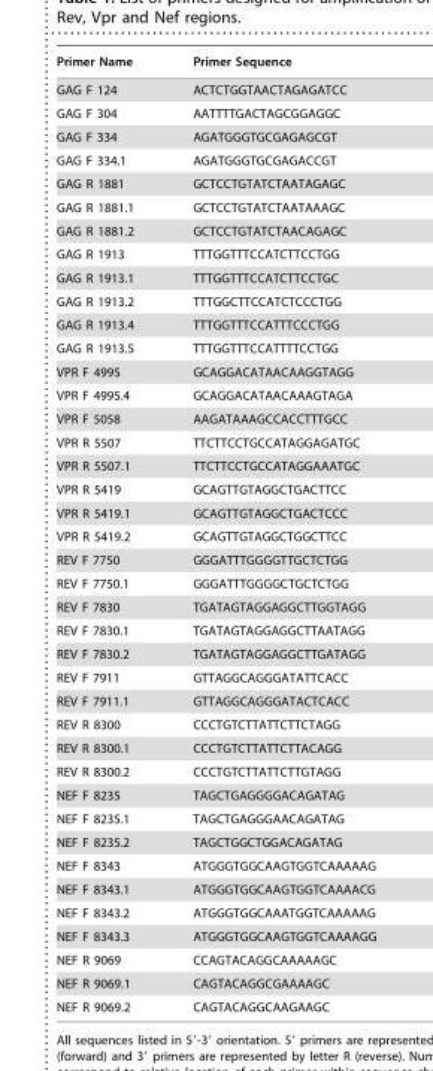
<table><thead><tr><td>Primer Name</td><td>Primer Sequence</td></tr></thead><tbody><tr><td>GAG F 124</td><td>ACTCTGGTAACTAGAGATCC</td></tr><tr><td>GAG F 304</td><td>AATTTTGACTAGCGGAGGC</td></tr><tr><td>GAG F 334</td><td>AGATGGGTGCGAGAGCGT</td></tr><tr><td>GAG F 334.1</td><td>AGATGGGTGCGAGACCGT</td></tr><tr><td>GAG R 1881</td><td>GCTCCTGTATCTAATAGAGC</td></tr><tr><td>GAG R 1881.1</td><td>GCTCCTGTATCTAATAAAGC</td></tr><tr><td>GAG R 1881.2</td><td>GCTCCTGTATCTAACAGAGC</td></tr><tr><td>GAG R 1913</td><td>TTTGGTTTCCATCTTCCTGG</td></tr><tr><td>GAG R 1913.1</td><td>TTTGGTTTCCATCTTCCTGC</td></tr><tr><td>GAG R 1913.2</td><td>TTTGGCTTCCATCTCCCTGG</td></tr><tr><td>GAG R 1913.4</td><td>TTTGGTTTCCATTTCCCTGG</td></tr><tr><td>GAG R 1913.5</td><td>TTTGGTTTCCATTTTCCTGG</td></tr><tr><td>VPR F 4995</td><td>GCAGGACATAACAAGGTAGG</td></tr><tr><td>VPR F 4995.4</td><td>GCAGGACATAACAAAGTAGA</td></tr><tr><td>VPR F 5058</td><td>AAGATAAAGCCACCTTTGCC</td></tr><tr><td>VPR R 5507</td><td>TTCTTCCTGCCATAGGAGATGC</td></tr><tr><td>VPR R 5507.1</td><td>TTCTTCCTGCCATAGGAAATGC</td></tr><tr><td>VPR R 5419</td><td>GCAGTTGTAGGCTGACTTCC</td></tr><tr><td>VPR R 5419.1</td><td>GCAGTTGTAGGCTGACTCCC</td></tr><tr><td>VPR R 5419.2</td><td>GCAGTTGTAGGCTGGCTTCC</td></tr><tr><td>REV F 7750</td><td>GGGATTTGGGGTTGCTCTGG</td></tr><tr><td>REV F 7750.1</td><td>GGGATTTGGGGCTGCTCTGG</td></tr><tr><td>REV F 7830</td><td>TGATAGTAGGAGGCTTGGTAGG</td></tr><tr><td>REV F 7830.1</td><td>TGATAGTAGGAGGCTTAATAGG</td></tr><tr><td>REV F 7830.2</td><td>TGATAGTAGGAGGCTTGATAGG</td></tr><tr><td>REV F 7911</td><td>GTTAGGCAGGGATATTCACC</td></tr><tr><td>REV F 7911.1</td><td>GTTAGGCAGGGATACTCACC</td></tr><tr><td>REV R 8300</td><td>CCCTGTCTTATTCTTCTAGG</td></tr><tr><td>REV R 8300.1</td><td>CCCTGTCTTATTCTTACAGG</td></tr><tr><td>REV R 8300.2</td><td>CCCTGTCTTATTCTTGTAGG</td></tr><tr><td>NEF F 8235</td><td>TAGCTGAGGGGACAGATAG</td></tr><tr><td>NEF F 8235.1</td><td>TAGCTGAGGGAACAGATAG</td></tr><tr><td>NEF F 8235.2</td><td>TAGCTGGCTGGACAGATAG</td></tr><tr><td>NEF F 8343</td><td>ATGGGTGGCAAGTGGTCAAAAAG</td></tr><tr><td>NEF F 8343.1</td><td>ATGGGTGGCAAGTGGTCAAAACG</td></tr><tr><td>NEF F 8343.2</td><td>ATGGGTGGCAAATGGTCAAAAAG</td></tr><tr><td>NEF F 8343.3</td><td>ATGGGTGGCAAGTGGTCAAAAGG</td></tr><tr><td>NEF R 9069</td><td>CCAGTACAGGCAAAAAGC</td></tr><tr><td>NEF R 9069.1</td><td>CAGTACAGGCGAAAAGC</td></tr><tr><td>NEF R 9069.2</td><td>CAGTACAGGCAAGAAGC</td></tr></tbody></table>